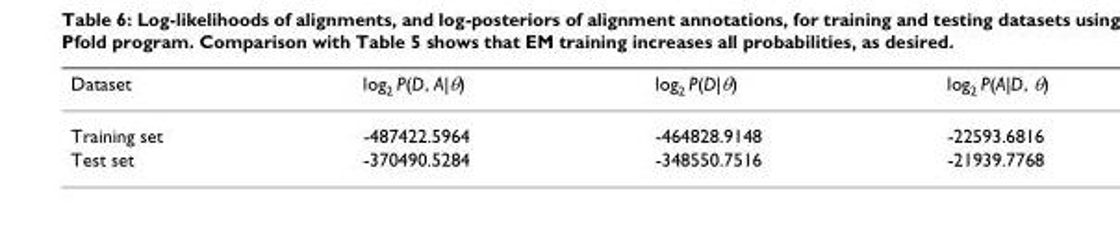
<table><thead><tr><td>Dataset</td><td>log<sub>2</sub> P(D, A|θ)</td><td>log<sub>2</sub> P(D|θ)</td><td>log<sub>2</sub> P(A|D, θ)</td></tr></thead><tbody><tr><td>Training set</td><td>-487422.5964</td><td>-464828.9148</td><td>-22593.6816</td></tr><tr><td>Test set</td><td>-370490.5284</td><td>-348550.7516</td><td>-21939.7768</td></tr></tbody></table>